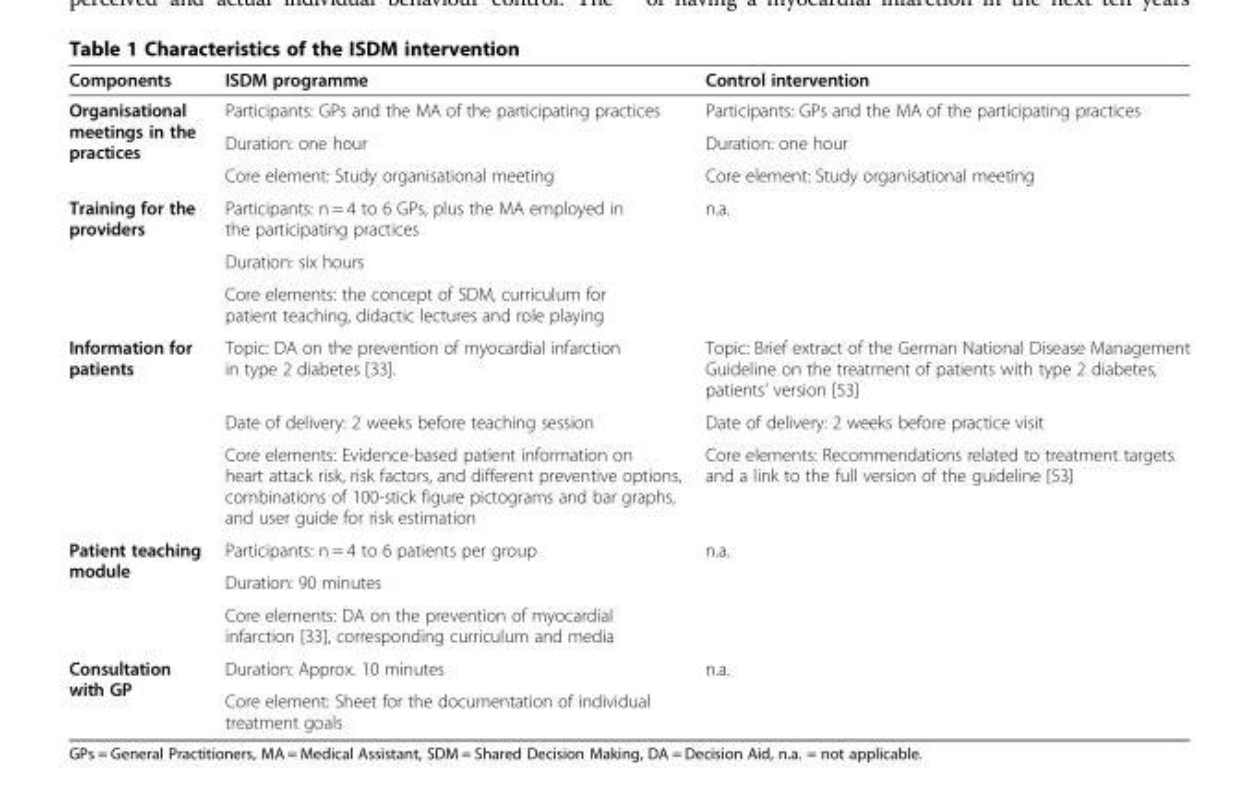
<table><thead><tr><td>Components</td><td>ISDM programme</td><td>Control intervention</td></tr></thead><tbody><tr><td rowspan="3">Organisational meetings in the practices</td><td>Participants: GPs and the MA of the participating practices</td><td>Participants: GPs and the MA of the participating practices</td></tr><tr><td>Duration: one hour</td><td>Duration: one hour</td></tr><tr><td>Core element: Study organisational meeting</td><td>Core element: Study organisational meeting</td></tr><tr><td rowspan="3">Training for the providers</td><td>Participants: n = 4 to 6 GPs, plus the MA employed in the participating practices</td><td rowspan="3">n.a.</td></tr><tr><td>Duration: six hours</td></tr><tr><td>Core elements: the concept of SDM, curriculum for patient teaching, didactic lectures and role playing</td></tr><tr><td rowspan="3">Information for patients</td><td>Topic: DA on the prevention of myocardial infarction in type 2 diabetes [33].</td><td>Topic: Brief extract of the German National Disease Management Guideline on the treatment of patients with type 2 diabetes, patients’ version [53]</td></tr><tr><td>Date of delivery: 2 weeks before teaching session</td><td>Date of delivery: 2 weeks before practice visit</td></tr><tr><td>Core elements: Evidence-based patient information on heart attack risk, risk factors, and different preventive options, combinations of 100-stick figure pictograms and bar graphs, and user guide for risk estimation</td><td>Core elements: Recommendations related to treatment targets and a link to the full version of the guideline [53]</td></tr><tr><td rowspan="3">Patient teaching module</td><td>Participants: n = 4 to 6 patients per group</td><td rowspan="3">n.a.</td></tr><tr><td>Duration: 90 minutes</td></tr><tr><td>Core elements: DA on the prevention of myocardial infarction [33], corresponding curriculum and media</td></tr><tr><td rowspan="2">Consultation with GP</td><td>Duration: Approx. 10 minutes</td><td rowspan="2">n.a.</td></tr><tr><td>Core element: Sheet for the documentation of individual treatment goals</td></tr></tbody></table>